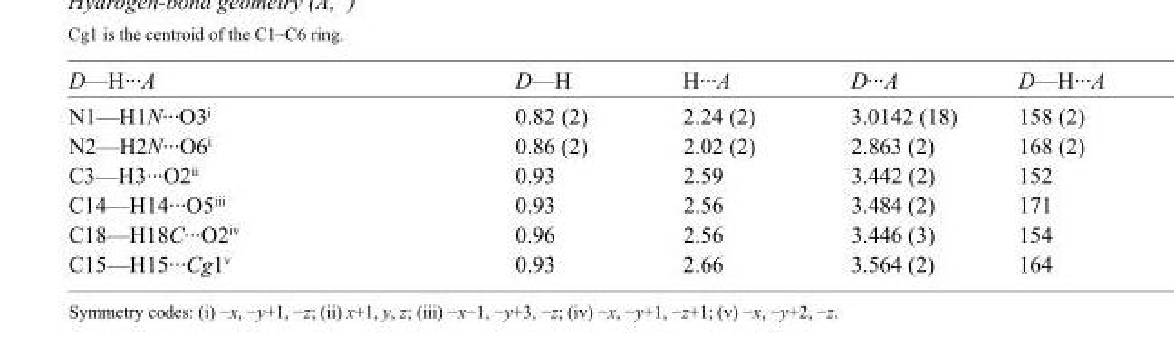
<table><tbody><tr><td>D—H···A</td><td>D—H</td><td>H···A</td><td>D···A</td><td>D—H···A</td></tr><tr><td>N1—H1N···O3<sup>i</sup></td><td>0.82 (2)</td><td>2.24 (2)</td><td>3.0142 (18)</td><td>158 (2)</td></tr><tr><td>N2—H2N···O6<sup>i</sup></td><td>0.86 (2)</td><td>2.02 (2)</td><td>2.863 (2)</td><td>168 (2)</td></tr><tr><td>C3—H3···O2<sup>ii</sup></td><td>0.93</td><td>2.59</td><td>3.442 (2)</td><td>152</td></tr><tr><td>C14—H14···O5<sup>iii</sup></td><td>0.93</td><td>2.56</td><td>3.484 (2)</td><td>171</td></tr><tr><td>C18—H18C···O2<sup>iv</sup></td><td>0.96</td><td>2.56</td><td>3.446 (3)</td><td>154</td></tr><tr><td>C15—H15···Cg1<sup>v</sup></td><td>0.93</td><td>2.66</td><td>3.564 (2)</td><td>164</td></tr></tbody></table>